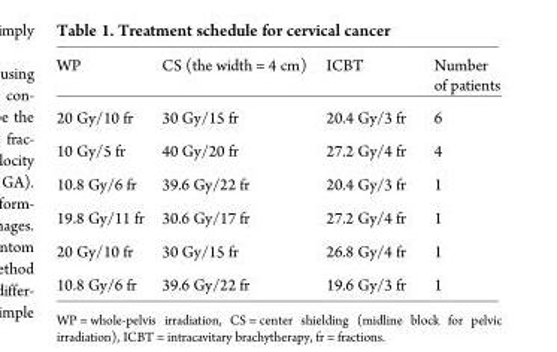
<table><thead><tr><td>WP</td><td>CS (the width = 4 cm)</td><td>ICBT</td><td>Number of patients</td></tr></thead><tbody><tr><td>20 Gy/10 fr</td><td>30 Gy/15 fr</td><td>20.4 Gy/3 fr</td><td>6</td></tr><tr><td>10 Gy/5 fr</td><td>40 Gy/20 fr</td><td>27.2 Gy/4 fr</td><td>4</td></tr><tr><td>10.8 Gy/6 fr</td><td>39.6 Gy/22 fr</td><td>20.4 Gy/3 fr</td><td>1</td></tr><tr><td>19.8 Gy/11 fr</td><td>30.6 Gy/17 fr</td><td>27.2 Gy/4 fr</td><td>1</td></tr><tr><td>20 Gy/10 fr</td><td>30 Gy/15 fr</td><td>26.8 Gy/4 fr</td><td>1</td></tr><tr><td>10.8 Gy/6 fr</td><td>39.6 Gy/22 fr</td><td>19.6 Gy/3 fr</td><td>1</td></tr></tbody></table>